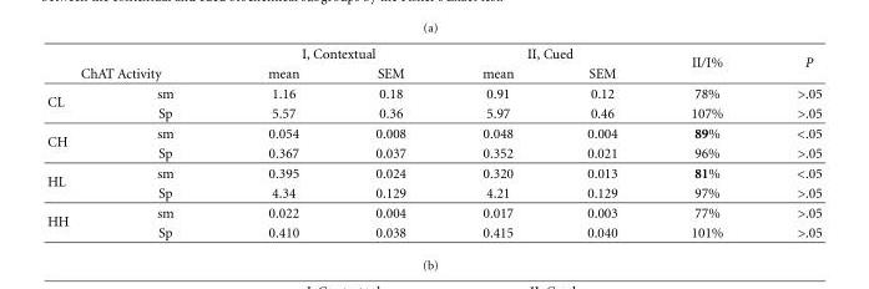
<table><thead><tr><td></td><td></td><td colspan="2">I, Contextual</td><td colspan="2">II, Cued</td><td rowspan="2">II/I%</td><td rowspan="2">P</td></tr><tr><td colspan="2">ChAT Activity</td><td>mean</td><td>SEM</td><td>mean</td><td>SEM</td></tr></thead><tbody><tr><td rowspan="2">CL</td><td>sm</td><td>1.16</td><td>0.18</td><td>0.91</td><td>0.12</td><td>78%</td><td>&gt;.05</td></tr><tr><td>Sp</td><td>5.57</td><td>0.36</td><td>5.97</td><td>0.46</td><td>107%</td><td>&gt;.05</td></tr><tr><td rowspan="2">CH</td><td>sm</td><td>0.054</td><td>0.008</td><td>0.048</td><td>0.004</td><td>89%</td><td>&lt;.05</td></tr><tr><td>Sp</td><td>0.367</td><td>0.037</td><td>0.352</td><td>0.021</td><td>96%</td><td>&gt;.05</td></tr><tr><td rowspan="2">HL</td><td>sm</td><td>0.395</td><td>0.024</td><td>0.320</td><td>0.013</td><td>81%</td><td>&lt;.05</td></tr><tr><td>Sp</td><td>4.34</td><td>0.129</td><td>4.21</td><td>0.129</td><td>97%</td><td>&gt;.05</td></tr><tr><td rowspan="2">HH</td><td>sm</td><td>0.022</td><td>0.004</td><td>0.017</td><td>0.003</td><td>77%</td><td>&gt;.05</td></tr><tr><td>Sp</td><td>0.410</td><td>0.038</td><td>0.415</td><td>0.040</td><td>101%</td><td>&gt;.05</td></tr></tbody></table>